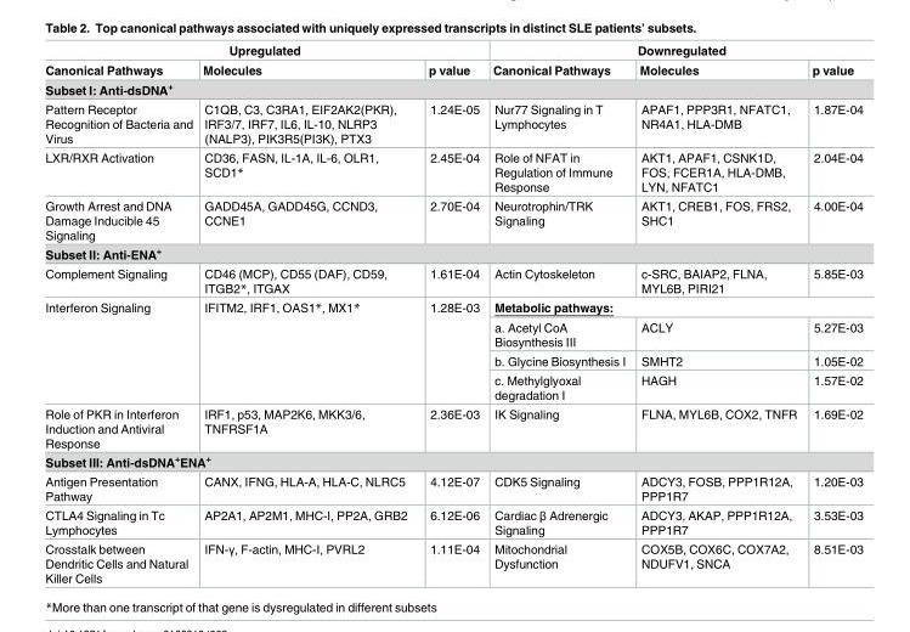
<table><thead><tr><td colspan="3">Upregulated</td><td colspan="3">Downregulated</td></tr><tr><td>Canonical Pathways</td><td>Molecules</td><td>p value</td><td>Canonical Pathways</td><td>Molecules</td><td>p value</td></tr></thead><tbody><tr><td colspan="6">Subset I: Anti-dsDNA<sup>+</sup></td></tr><tr><td>Pattern Receptor Recognition of Bacteria and Virus</td><td>C1QB, C3, C3RA1, EIF2AK2(PKR), IRF3/7, IRF7, IL6, IL-10, NLRP3 (NALP3), PIK3R5(PI3K), PTX3</td><td>1.24E-05</td><td>Nur77 Signaling in T Lymphocytes</td><td>APAF1, PPP3R1, NFATC1, NR4A1, HLA-DMB</td><td>1.87E-04</td></tr><tr><td>LXR/RXR Activation</td><td>CD36, FASN, IL-1A, IL-6, OLR1, SCD1*</td><td>2.45E-04</td><td>Role of NFAT in Regulation of Immune Response</td><td>AKT1, APAF1, CSNK1D, FOS, FCER1A, HLA-DMB, LYN, NFATC1</td><td>2.04E-04</td></tr><tr><td>Growth Arrest and DNA Damage Inducible 45 Signaling</td><td>GADD45A, GADD45G, CCND3, CCNE1</td><td>2.70E-04</td><td>Neurotrophin/TRK Signaling</td><td>AKT1, CREB1, FOS, FRS2, SHC1</td><td>4.00E-04</td></tr><tr><td colspan="6">Subset II: Anti-ENA<sup>+</sup></td></tr><tr><td>Complement Signaling</td><td>CD46 (MCP), CD55 (DAF), CD59, ITGB2*, ITGAX</td><td>1.61E-04</td><td>Actin Cytoskeleton</td><td>c-SRC, BAIAP2, FLNA, MYL6B, PIRI21</td><td>5.85E-03</td></tr><tr><td rowspan="4">Interferon Signaling</td><td rowspan="4">IFITM2, IRF1, OAS1*, MX1*</td><td rowspan="4">1.28E-03</td><td colspan="3">Metabolic pathways:</td></tr><tr><td>a. Acetyl CoA Biosynthesis III</td><td>ACLY</td><td>5.27E-03</td></tr><tr><td>b. Glycine Biosynthesis I</td><td>SMHT2</td><td>1.05E-02</td></tr><tr><td>c. Methylglyoxal degradation I</td><td>HAGH</td><td>1.57E-02</td></tr><tr><td>Role of PKR in Interferon Induction and Antiviral Response</td><td>IRF1, p53, MAP2K6, MKK3/6, TNFRSF1A</td><td>2.36E-03</td><td>IK Signaling</td><td>FLNA, MYL6B, COX2, TNFR</td><td>1.69E-02</td></tr><tr><td colspan="6">Subset III: Anti-dsDNA<sup>+</sup>ENA<sup>+</sup></td></tr><tr><td>Antigen Presentation Pathway</td><td>CANX, IFNG, HLA-A, HLA-C, NLRC5</td><td>4.12E-07</td><td>CDK5 Signaling</td><td>ADCY3, FOSB, PPP1R12A, PPP1R7</td><td>1.20E-03</td></tr><tr><td>CTLA4 Signaling in Tc Lymphocytes</td><td>AP2A1, AP2M1, MHC-I, PP2A, GRB2</td><td>6.12E-06</td><td>Cardiac β Adrenergic Signaling</td><td>ADCY3, AKAP, PPP1R12A, PPP1R7</td><td>3.53E-03</td></tr><tr><td>Crosstalk between Dendritic Cells and Natural Killer Cells</td><td>IFN-γ, F-actin, MHC-I, PVRL2</td><td>1.11E-04</td><td>Mitochondrial Dysfunction</td><td>COX5B, COX6C, COX7A2, NDUFV1, SNCA</td><td>8.51E-03</td></tr></tbody></table>